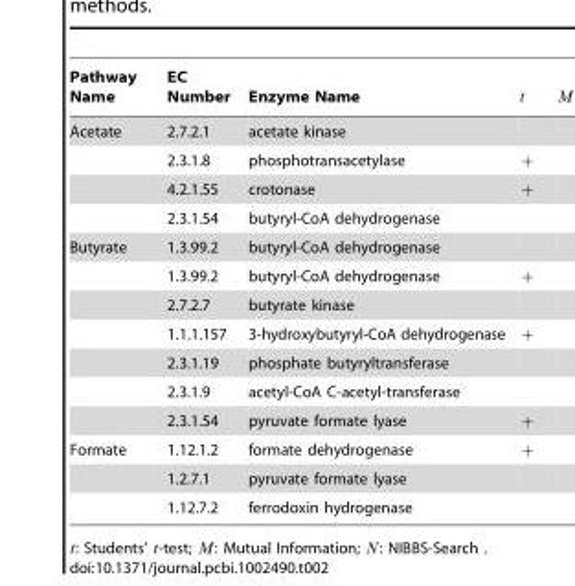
<table><thead><tr><td>Pathway Name</td><td>EC Number</td><td>Enzyme Name</td></tr></thead><tbody><tr><td rowspan="4">Acetate</td><td>2.7.2.1</td><td>acetate kinase</td></tr><tr><td>2.3.1.8</td><td>phosphotransacetylase</td></tr><tr><td>4.2.1.55</td><td>crotonase</td></tr><tr><td>2.3.1.54</td><td>butyryl-CoA dehydrogenase</td></tr><tr><td rowspan="7">Butyrate</td><td>1.3.99.2</td><td>butyryl-CoA dehydrogenase</td></tr><tr><td>1.3.99.2</td><td>butyryl-CoA dehydrogenase</td></tr><tr><td>2.7.2.7</td><td>butyrate kinase</td></tr><tr><td>1.1.1.157</td><td>3-hydroxybutyryl-CoA dehydrogenase</td></tr><tr><td>2.3.1.19</td><td>phosphate butyryltransferase</td></tr><tr><td>2.3.1.9</td><td>acetyl-CoA C-acetyl-transferase</td></tr><tr><td>2.3.1.54</td><td>pyruvate formate lyase</td></tr><tr><td rowspan="3">Formate</td><td>1.12.1.2</td><td>formate dehydrogenase</td></tr><tr><td>1.2.7.1</td><td>pyruvate formate lyase</td></tr><tr><td>1.12.7.2</td><td>ferrodoxin hydrogenase</td></tr></tbody></table>